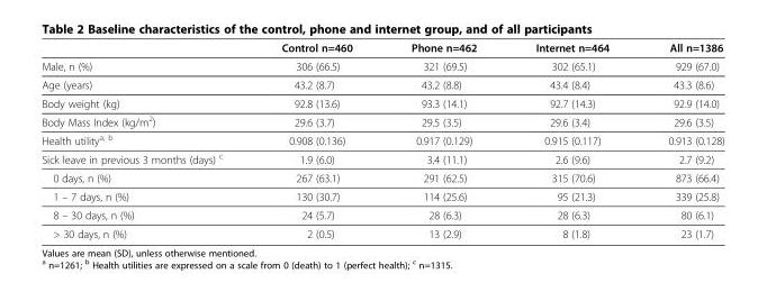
<table><thead><tr><td></td><td>Control n=460</td><td>Phone n=462</td><td>Internet n=464</td><td>All n=1386</td></tr></thead><tbody><tr><td>Male, n (%)</td><td>306 (66.5)</td><td>321 (69.5)</td><td>302 (65.1)</td><td>929 (67.0)</td></tr><tr><td>Age (years)</td><td>43.2 (8.7)</td><td>43.2 (8.8)</td><td>43.4 (8.4)</td><td>43.3 (8.6)</td></tr><tr><td>Body weight (kg)</td><td>92.8 (13.6)</td><td>93.3 (14.1)</td><td>92.7 (14.3)</td><td>92.9 (14.0)</td></tr><tr><td>Body Mass Index (kg/m<sup>2</sup>)</td><td>29.6 (3.7)</td><td>29.5 (3.5)</td><td>29.6 (3.4)</td><td>29.6 (3.5)</td></tr><tr><td>Health utility<sup>a, b</sup></td><td>0.908 (0.136)</td><td>0.917 (0.129)</td><td>0.915 (0.117)</td><td>0.913 (0.128)</td></tr><tr><td>Sick leave in previous 3 months (days) <sup>c</sup></td><td>1.9 (6.0)</td><td>3.4 (11.1)</td><td>2.6 (9.6)</td><td>2.7 (9.2)</td></tr><tr><td>0 days, n (%)</td><td>267 (63.1)</td><td>291 (62.5)</td><td>315 (70.6)</td><td>873 (66.4)</td></tr><tr><td>1 – 7 days, n (%)</td><td>130 (30.7)</td><td>114 (25.6)</td><td>95 (21.3)</td><td>339 (25.8)</td></tr><tr><td>8 – 30 days, n (%)</td><td>24 (5.7)</td><td>28 (6.3)</td><td>28 (6.3)</td><td>80 (6.1)</td></tr><tr><td>&gt; 30 days, n (%)</td><td>2 (0.5)</td><td>13 (2.9)</td><td>8 (1.8)</td><td>23 (1.7)</td></tr></tbody></table>